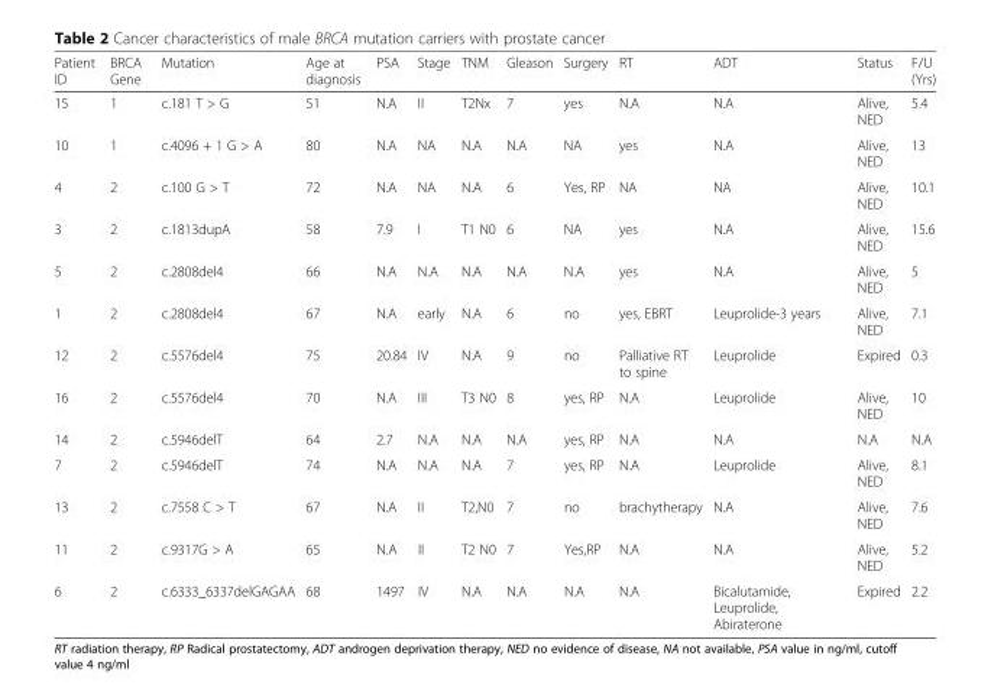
<table><thead><tr><td>Patient ID</td><td>BRCA Gene</td><td>Mutation</td><td>Age at diagnosis</td><td>PSA</td><td>Stage</td><td>TNM</td><td>Gleason</td><td>Surgery</td><td>RT</td><td>ADT</td><td>Status</td><td>F/U (Yrs)</td></tr></thead><tbody><tr><td>15</td><td>1</td><td>c.181 T &gt; G</td><td>51</td><td>N.A</td><td>II</td><td>T2Nx</td><td>7</td><td>yes</td><td>N.A</td><td>N.A</td><td>Alive, NED</td><td>5.4</td></tr><tr><td>10</td><td>1</td><td>c.4096 + 1 G &gt; A</td><td>80</td><td>N.A</td><td>NA</td><td>N.A</td><td>N.A</td><td>NA</td><td>yes</td><td>N.A</td><td>Alive, NED</td><td>13</td></tr><tr><td>4</td><td>2</td><td>c.100 G &gt; T</td><td>72</td><td>N.A</td><td>NA</td><td>N.A</td><td>6</td><td>Yes, RP</td><td>NA</td><td>NA</td><td>Alive, NED</td><td>10.1</td></tr><tr><td>3</td><td>2</td><td>c.1813dupA</td><td>58</td><td>7.9</td><td>I</td><td>T1 N0</td><td>6</td><td>NA</td><td>yes</td><td>N.A</td><td>Alive, NED</td><td>15.6</td></tr><tr><td>5</td><td>2</td><td>c.2808del4</td><td>66</td><td>N.A</td><td>N.A</td><td>N.A</td><td>N.A</td><td>N.A</td><td>yes</td><td>N.A</td><td>Alive, NED</td><td>5</td></tr><tr><td>1</td><td>2</td><td>c.2808del4</td><td>67</td><td>N.A</td><td>early</td><td>N.A</td><td>6</td><td>no</td><td>yes, EBRT</td><td>Leuprolide-3 years</td><td>Alive, NED</td><td>7.1</td></tr><tr><td>12</td><td>2</td><td>c.5576del4</td><td>75</td><td>20.84</td><td>IV</td><td>N.A</td><td>9</td><td>no</td><td>Palliative RT to spine</td><td>Leuprolide</td><td>Expired</td><td>0.3</td></tr><tr><td>16</td><td>2</td><td>c.5576del4</td><td>70</td><td>N.A</td><td>III</td><td>T3 N0</td><td>8</td><td>yes, RP</td><td>N.A</td><td>Leuprolide</td><td>Alive, NED</td><td>10</td></tr><tr><td>14</td><td>2</td><td>c.5946delT</td><td>64</td><td>2.7</td><td>N.A</td><td>N.A</td><td>N.A</td><td>yes, RP</td><td>N.A</td><td>N.A</td><td>N.A</td><td>N.A</td></tr><tr><td>7</td><td>2</td><td>c.5946delT</td><td>74</td><td>N.A</td><td>N.A</td><td>N.A</td><td>7</td><td>yes, RP</td><td>N.A</td><td>Leuprolide</td><td>Alive, NED</td><td>8.1</td></tr><tr><td>13</td><td>2</td><td>c.7558 C &gt; T</td><td>67</td><td>N.A</td><td>II</td><td>T2,N0</td><td>7</td><td>no</td><td>brachytherapy</td><td>N.A</td><td>Alive, NED</td><td>7.6</td></tr><tr><td>11</td><td>2</td><td>c.9317G &gt; A</td><td>65</td><td>N.A</td><td>II</td><td>T2 N0</td><td>7</td><td>Yes,RP</td><td>N.A</td><td>N.A</td><td>Alive, NED</td><td>5.2</td></tr><tr><td>6</td><td>2</td><td>c.6333_6337delGAGAA</td><td>68</td><td>1497</td><td>IV</td><td>N.A</td><td>N.A</td><td>N.A</td><td>N.A</td><td>Bicalutamide, Leuprolide, Abiraterone</td><td>Expired</td><td>2.2</td></tr></tbody></table>